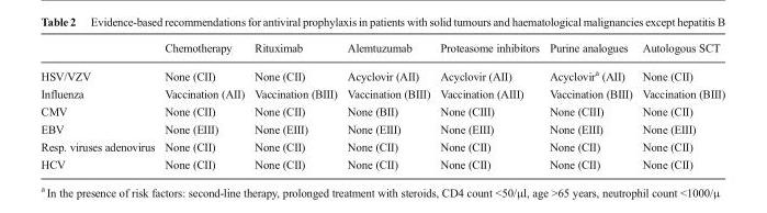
<table><thead><tr><td></td><td>Chemotherapy</td><td>Rituximab</td><td>Alemtuzumab</td><td>Proteasome inhibitors</td><td>Purine analogues</td><td>Autologous SCT</td></tr></thead><tbody><tr><td>HSV/VZV</td><td>None (CII)</td><td>None (CII)</td><td>Acyclovir (AII)</td><td>Acyclovir (AII)</td><td>Acyclovir<sup>a</sup> (AII)</td><td>None (CII)</td></tr><tr><td>Influenza</td><td>Vaccination (AII)</td><td>Vaccination (BIII)</td><td>Vaccination (BIII)</td><td>Vaccination (AIII)</td><td>Vaccination (BIII)</td><td>Vaccination (BIII)</td></tr><tr><td>CMV</td><td>None (CII)</td><td>None (CII)</td><td>None (BII)</td><td>None (CIII)</td><td>None (CIII)</td><td>None (CII)</td></tr><tr><td>EBV</td><td>None (EIII)</td><td>None (EIII)</td><td>None (EIII)</td><td>None (EIII)</td><td>None (EIII)</td><td>None (EIII)</td></tr><tr><td>Resp. viruses adenovirus</td><td>None (CII)</td><td>None (CII)</td><td>None (CII)</td><td>None (CII)</td><td>None (CII)</td><td>None (CII)</td></tr><tr><td>HCV</td><td>None (CII)</td><td>None (CII)</td><td>None (CII)</td><td>None (CII)</td><td>None (CII)</td><td>None (CII)</td></tr></tbody></table>